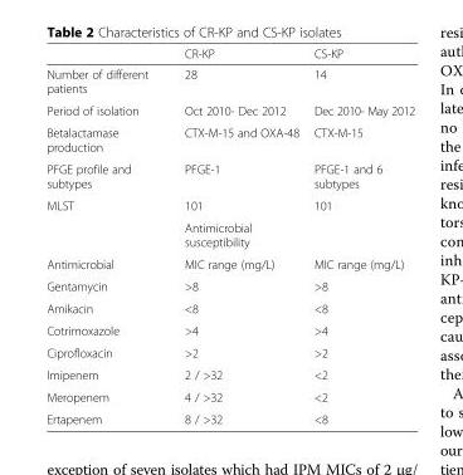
<table><thead><tr><td></td><td>CR-KP</td><td>CS-KP</td></tr></thead><tbody><tr><td>Number of different patients</td><td>28</td><td>14</td></tr><tr><td>Period of isolation</td><td>Oct 2010- Dec 2012</td><td>Dec 2010- May 2012</td></tr><tr><td>Betalactamase production</td><td>CTX-M-15 and OXA-48</td><td>CTX-M-15</td></tr><tr><td>PFGE profile and subtypes</td><td>PFGE-1</td><td>PFGE-1 and 6 subtypes</td></tr><tr><td rowspan="2">MLST</td><td>101</td><td>101</td></tr><tr><td>Antimicrobial susceptibility</td><td></td></tr><tr><td>Antimicrobial</td><td>MIC range (mg/L)</td><td>MIC range (mg/L)</td></tr><tr><td>Gentamycin</td><td>&gt;8</td><td>&gt;8</td></tr><tr><td>Amikacin</td><td>&lt;8</td><td>&lt;8</td></tr><tr><td>Cotrimoxazole</td><td>&gt;4</td><td>&gt;4</td></tr><tr><td>Ciprofloxacin</td><td>&gt;2</td><td>&gt;2</td></tr><tr><td>Imipenem</td><td>2 / &gt;32</td><td>&lt;2</td></tr><tr><td>Meropenem</td><td>4 / &gt;32</td><td>&lt;2</td></tr><tr><td>Ertapenem</td><td>8 / &gt;32</td><td>&lt;8</td></tr></tbody></table>